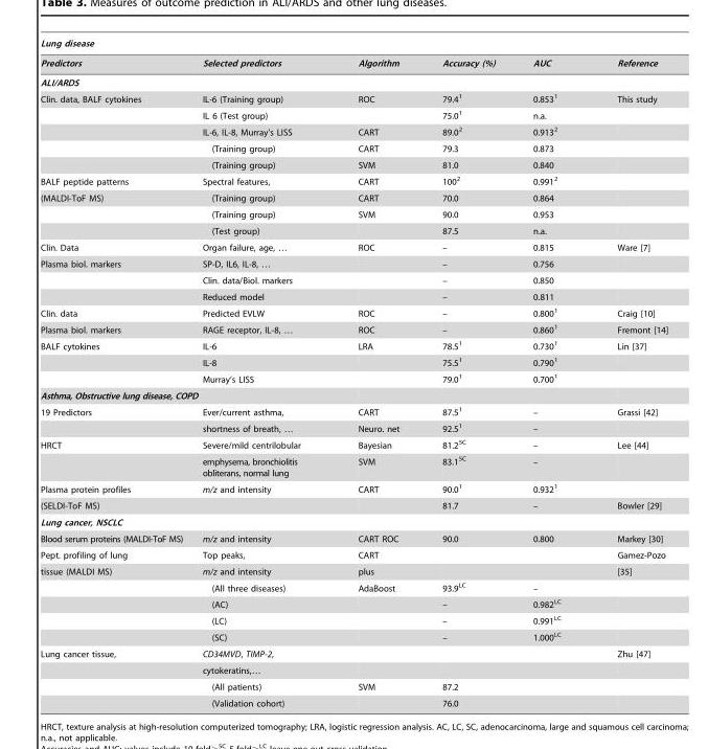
<table><thead><tr><td colspan="6">Lung disease</td></tr><tr><td>Predictors</td><td>Selected predictors</td><td>Algorithm</td><td>Accuracy (%)</td><td>AUC</td><td>Reference</td></tr></thead><tbody><tr><td colspan="6">ALI/ARDS</td></tr><tr><td rowspan="5">Clin. data, BALF cytokines</td><td>IL-6 (Training group)</td><td>ROC</td><td>79.4<sup>1</sup></td><td>0.853<sup>1</sup></td><td>This study</td></tr><tr><td>IL 6 (Test group)</td><td></td><td>75.0<sup>1</sup></td><td>n.a.</td><td></td></tr><tr><td>IL-6, IL-8, Murray’s LISS</td><td>CART</td><td>89.0<sup>2</sup></td><td>0.913<sup>2</sup></td><td></td></tr><tr><td>(Training group)</td><td>CART</td><td>79.3</td><td>0.873</td><td></td></tr><tr><td>(Training group)</td><td>SVM</td><td>81.0</td><td>0.840</td><td></td></tr><tr><td>BALF peptide patterns</td><td>Spectral features,</td><td>CART</td><td>100<sup>2</sup></td><td>0.991<sup>2</sup></td><td></td></tr><tr><td rowspan="3">(MALDI-ToF MS)</td><td>(Training group)</td><td>CART</td><td>70.0</td><td>0.864</td><td></td></tr><tr><td>(Training group)</td><td>SVM</td><td>90.0</td><td>0.953</td><td></td></tr><tr><td>(Test group)</td><td></td><td>87.5</td><td>n.a.</td><td></td></tr><tr><td>Clin. Data</td><td>Organ failure, age, …</td><td>ROC</td><td>–</td><td>0.815</td><td>Ware [7]</td></tr><tr><td rowspan="3">Plasma biol. markers</td><td>SP-D, IL6, IL-8, …</td><td></td><td>–</td><td>0.756</td><td></td></tr><tr><td>Clin. data/Biol. markers</td><td></td><td>–</td><td>0.850</td><td></td></tr><tr><td>Reduced model</td><td></td><td>–</td><td>0.811</td><td></td></tr><tr><td>Clin. data</td><td>Predicted EVLW</td><td>ROC</td><td>–</td><td>0.800<sup>1</sup></td><td>Craig [10]</td></tr><tr><td>Plasma biol. markers</td><td>RAGE receptor, IL-8, …</td><td>ROC</td><td>–</td><td>0.860<sup>1</sup></td><td>Fremont [14]</td></tr><tr><td rowspan="3">BALF cytokines</td><td>IL-6</td><td>LRA</td><td>78.5<sup>1</sup></td><td>0.730<sup>1</sup></td><td>Lin [37]</td></tr><tr><td>IL-8</td><td></td><td>75.5<sup>1</sup></td><td>0.790<sup>1</sup></td><td></td></tr><tr><td>Murray’s LISS</td><td></td><td>79.0<sup>1</sup></td><td>0.700<sup>1</sup></td><td></td></tr><tr><td colspan="6">Asthma, Obstructive lung disease, COPD</td></tr><tr><td rowspan="2">19 Predictors</td><td>Ever/current asthma,</td><td>CART</td><td>87.5<sup>1</sup></td><td>–</td><td>Grassi [42]</td></tr><tr><td>shortness of breath, …</td><td>Neuro. net</td><td>92.5<sup>1</sup></td><td>–</td><td></td></tr><tr><td rowspan="2">HRCT</td><td>Severe/mild centrilobular</td><td>Bayesian</td><td>81.2<sup>5C</sup></td><td>–</td><td>Lee [44]</td></tr><tr><td>emphysema, bronchiolitis obliterans, normal lung</td><td>SVM</td><td>83.1<sup>5C</sup></td><td>–</td><td></td></tr><tr><td>Plasma protein profiles</td><td>m/z and intensity</td><td>CART</td><td>90.0<sup>1</sup></td><td>0.932<sup>1</sup></td><td></td></tr><tr><td>(SELDI-ToF MS)</td><td></td><td></td><td>81.7</td><td>–</td><td>Bowler [29]</td></tr><tr><td colspan="6">Lung cancer, NSCLC</td></tr><tr><td>Blood serum proteins (MALDI-ToF MS)</td><td>m/z and intensity</td><td>CART ROC</td><td>90.0</td><td>0.800</td><td>Markey [30]</td></tr><tr><td>Pept. profiling of lung</td><td>Top peaks,</td><td>CART</td><td></td><td></td><td>Gamez-Pozo</td></tr><tr><td rowspan="5">tissue (MALDI MS)</td><td>m/z and intensity</td><td>plus</td><td></td><td></td><td>[35]</td></tr><tr><td>(All three diseases)</td><td>AdaBoost</td><td>93.9<sup>LC</sup></td><td>–</td><td></td></tr><tr><td>(AC)</td><td></td><td>–</td><td>0.982<sup>LC</sup></td><td></td></tr><tr><td>(LC)</td><td></td><td>–</td><td>0.991<sup>LC</sup></td><td></td></tr><tr><td>(SC)</td><td></td><td>–</td><td>1.000<sup>LC</sup></td><td></td></tr><tr><td rowspan="4">Lung cancer tissue,</td><td>CD34MVD, TIMP-2,</td><td></td><td></td><td></td><td>Zhu [47]</td></tr><tr><td>cytokeratins,…</td><td></td><td></td><td></td><td></td></tr><tr><td>(All patients)</td><td>SVM</td><td>87.2</td><td></td><td></td></tr><tr><td>(Validation cohort)</td><td></td><td>76.0</td><td></td><td></td></tr></tbody></table>